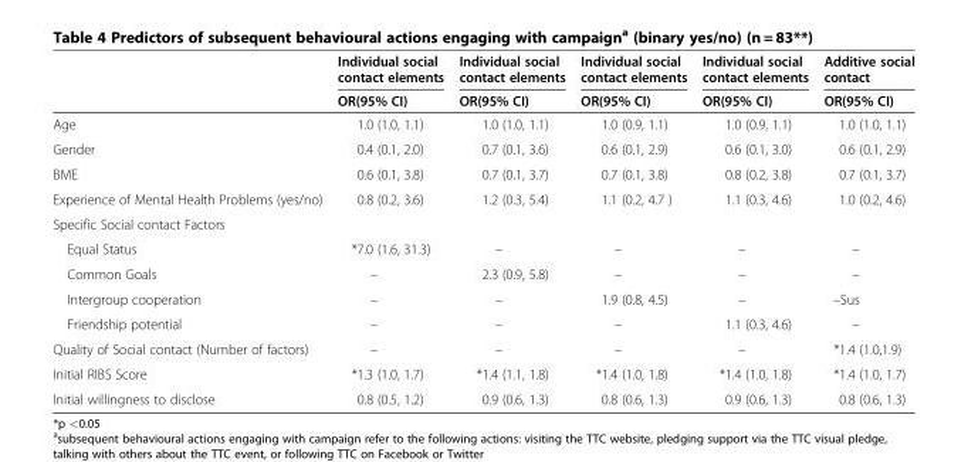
<table><thead><tr><td rowspan="2"></td><td rowspan="2">Individual social contact elements OR(95% CI)</td><td rowspan="2">Individual social contact elements OR(95% CI)</td><td rowspan="2">Individual social contact elements OR(95% CI)</td><td rowspan="2">Individual social contact elements OR(95% CI)</td><td rowspan="2">Additive social contact OR(95% CI)</td></tr><tr></tr></thead><tbody><tr><td>Age</td><td>1.0 (1.0, 1.1)</td><td>1.0 (1.0, 1.1)</td><td>1.0 (0.9, 1.1)</td><td>1.0 (0.9, 1.1)</td><td>1.0 (1.0, 1.1)</td></tr><tr><td>Gender</td><td>0.4 (0.1, 2.0)</td><td>0.7 (0.1, 3.6)</td><td>0.6 (0.1, 2.9)</td><td>0.6 (0.1, 3.0)</td><td>0.6 (0.1, 2.9)</td></tr><tr><td>BME</td><td>0.6 (0.1, 3.8)</td><td>0.7 (0.1, 3.7)</td><td>0.7 (0.1, 3.8)</td><td>0.8 (0.2, 3.8)</td><td>0.7 (0.1, 3.7)</td></tr><tr><td>Experience of Mental Health Problems (yes/no)</td><td>0.8 (0.2, 3.6)</td><td>1.2 (0.3, 5.4)</td><td>1.1 (0.2, 4.7 )</td><td>1.1 (0.3, 4.6)</td><td>1.0 (0.2, 4.6)</td></tr><tr><td colspan="6">Specific Social contact Factors</td></tr><tr><td>Equal Status</td><td>*7.0 (1.6, 31.3)</td><td>–</td><td>–</td><td>–</td><td>–</td></tr><tr><td>Common Goals</td><td>–</td><td>2.3 (0.9, 5.8)</td><td>–</td><td>–</td><td>–</td></tr><tr><td>Intergroup cooperation</td><td>–</td><td>–</td><td>1.9 (0.8, 4.5)</td><td>–</td><td>–Sus</td></tr><tr><td>Friendship potential</td><td>–</td><td>–</td><td>–</td><td>1.1 (0.3, 4.6)</td><td>–</td></tr><tr><td>Quality of Social contact (Number of factors)</td><td>–</td><td>–</td><td>–</td><td>–</td><td>*1.4 (1.0,1.9)</td></tr><tr><td>Initial RIBS Score</td><td>*1.3 (1.0, 1.7)</td><td>*1.4 (1.1, 1.8)</td><td>*1.4 (1.0, 1.8)</td><td>*1.4 (1.0, 1.8)</td><td>*1.4 (1.0, 1.7)</td></tr><tr><td>Initial willingness to disclose</td><td>0.8 (0.5, 1.2)</td><td>0.9 (0.6, 1.3)</td><td>0.8 (0.6, 1.3)</td><td>0.9 (0.6, 1.3)</td><td>0.8 (0.6, 1.3)</td></tr></tbody></table>